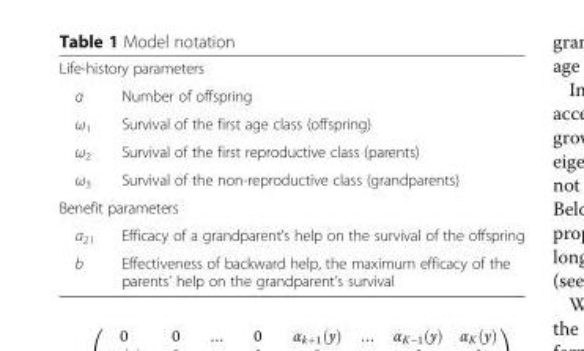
<table><tbody><tr><td colspan="2">Life-history parameters</td></tr><tr><td>α</td><td>Number of offspring</td></tr><tr><td>ω<sub>1</sub></td><td>Survival of the first age class (offspring)</td></tr><tr><td>ω<sub>2</sub></td><td>Survival of the first reproductive class (parents)</td></tr><tr><td>ω<sub>3</sub></td><td>Survival of the non-reproductive class (grandparents)</td></tr><tr><td colspan="2">Benefit parameters</td></tr><tr><td>a<sub>21</sub></td><td>Efficacy of a grandparent’s help on the survival of the offspring</td></tr><tr><td>b</td><td>Effectiveness of backward help, the maximum efficacy of the parents’ help on the grandparent’s survival</td></tr></tbody></table>